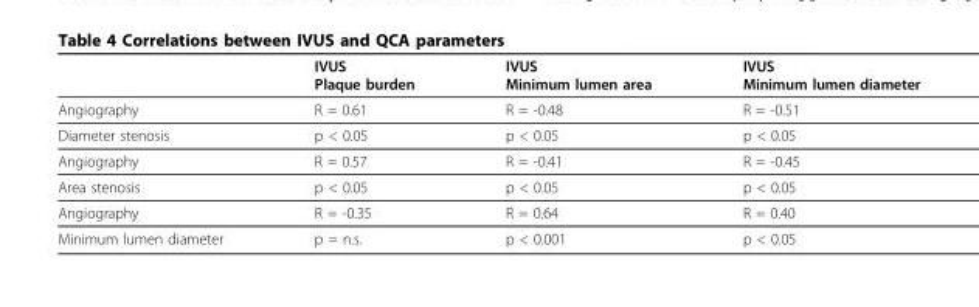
<table><thead><tr><td></td><td>IVUS Plaque burden</td><td>IVUS Minimum lumen area</td><td>IVUS Minimum lumen diameter</td></tr></thead><tbody><tr><td>Angiography</td><td>R = 0.61</td><td>R = -0.48</td><td>R = -0.51</td></tr><tr><td>Diameter stenosis</td><td>p &lt; 0.05</td><td>p &lt; 0.05</td><td>p &lt; 0.05</td></tr><tr><td>Angiography</td><td>R = 0.57</td><td>R = -0.41</td><td>R = -0.45</td></tr><tr><td>Area stenosis</td><td>p &lt; 0.05</td><td>p &lt; 0.05</td><td>p &lt; 0.05</td></tr><tr><td>Angiography</td><td>R = -0.35</td><td>R = 0.64</td><td>R = 0.40</td></tr><tr><td>Minimum lumen diameter</td><td>p = n.s.</td><td>p &lt; 0.001</td><td>p &lt; 0.05</td></tr></tbody></table>